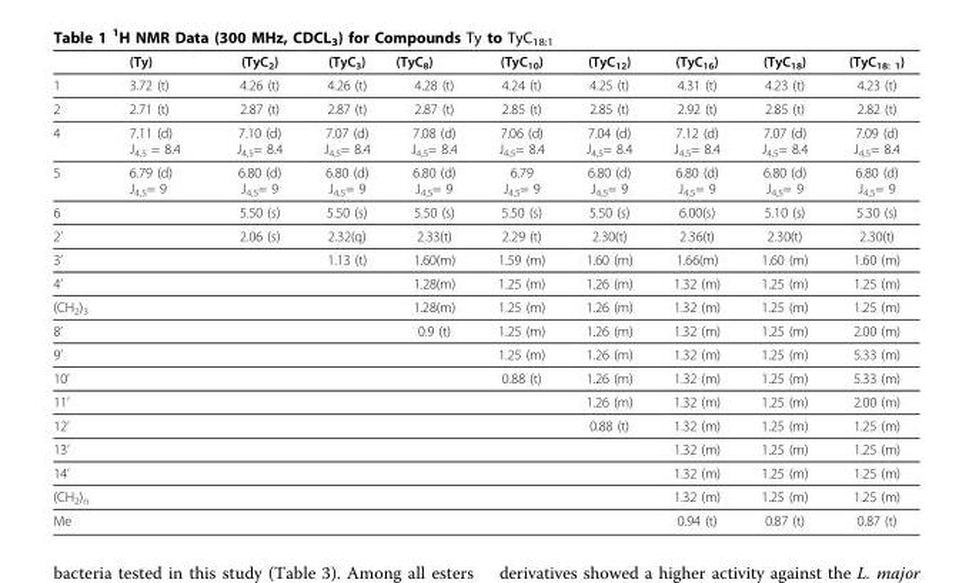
<table><thead><tr><td></td><td>(Ty)</td><td>(TyC<sub>2</sub>)</td><td>(TyC<sub>3</sub>)</td><td>(TyC<sub>8</sub>)</td><td>(TyC<sub>10</sub>)</td><td>(TyC<sub>12</sub>)</td><td>(TyC<sub>16</sub>)</td><td>(TyC<sub>18</sub>)</td><td>(TyC<sub>18: 1</sub>)</td></tr></thead><tbody><tr><td>1</td><td>3.72 (t)</td><td>4.26 (t)</td><td>4.26 (t)</td><td>4.28 (t)</td><td>4.24 (t)</td><td>4.25 (t)</td><td>4.31 (t)</td><td>4.23 (t)</td><td>4.23 (t)</td></tr><tr><td>2</td><td>2.71 (t)</td><td>2.87 (t)</td><td>2.87 (t)</td><td>2.87 (t)</td><td>2.85 (t)</td><td>2.85 (t)</td><td>2.92 (t)</td><td>2.85 (t)</td><td>2.82 (t)</td></tr><tr><td>4</td><td>7.11 (d) J<sub>4,5</sub> = 8.4</td><td>7.10 (d) J<sub>4,5</sub>= 8.4</td><td>7.07 (d) J<sub>4,5</sub>= 8.4</td><td>7.08 (d) J<sub>4,5</sub>= 8.4</td><td>7.06 (d) J<sub>4,5</sub>= 8.4</td><td>7.04 (d) J<sub>4,5</sub>= 8.4</td><td>7.12 (d) J<sub>4,5</sub>= 8.4</td><td>7.07 (d) J<sub>4,5</sub>= 8.4</td><td>7.09 (d) J<sub>4,5</sub>= 8.4</td></tr><tr><td>5</td><td>6.79 (d) J<sub>4,5</sub>= 9</td><td>6.80 (d) J<sub>4,5</sub>= 9</td><td>6.80 (d) J<sub>4,5</sub>= 9</td><td>6.80 (d) J<sub>4,5</sub>= 9</td><td>6.79 J<sub>4,5</sub>= 9</td><td>6.80 (d) J<sub>4,5</sub>= 9</td><td>6.80 (d) J<sub>4,5</sub>= 9</td><td>6.80 (d) J<sub>4,5</sub>= 9</td><td>6.80 (d) J<sub>4,5</sub>= 9</td></tr><tr><td>6</td><td></td><td>5.50 (s)</td><td>5.50 (s)</td><td>5.50 (s)</td><td>5.50 (s)</td><td>5.50 (s)</td><td>6.00(s)</td><td>5.10 (s)</td><td>5.30 (s)</td></tr><tr><td>2’</td><td></td><td>2.06 (s)</td><td>2.32(q)</td><td>2.33(t)</td><td>2.29 (t)</td><td>2.30(t)</td><td>2.36(t)</td><td>2.30(t)</td><td>2.30(t)</td></tr><tr><td>3’</td><td></td><td></td><td>1.13 (t)</td><td>1.60(m)</td><td>1.59 (m)</td><td>1.60 (m)</td><td>1.66(m)</td><td>1.60 (m)</td><td>1.60 (m)</td></tr><tr><td>4’</td><td></td><td></td><td></td><td>1.28(m)</td><td>1.25 (m)</td><td>1.26 (m)</td><td>1.32 (m)</td><td>1.25 (m)</td><td>1.25 (m)</td></tr><tr><td>(CH<sub>2</sub>)<sub>3</sub></td><td></td><td></td><td></td><td>1.28(m)</td><td>1.25 (m)</td><td>1.26 (m)</td><td>1.32 (m)</td><td>1.25 (m)</td><td>1.25 (m)</td></tr><tr><td>8’</td><td></td><td></td><td></td><td>0.9 (t)</td><td>1.25 (m)</td><td>1.26 (m)</td><td>1.32 (m)</td><td>1.25 (m)</td><td>2.00 (m)</td></tr><tr><td>9’</td><td></td><td></td><td></td><td></td><td>1.25 (m)</td><td>1.26 (m)</td><td>1.32 (m)</td><td>1.25 (m)</td><td>5.33 (m)</td></tr><tr><td>10’</td><td></td><td></td><td></td><td></td><td>0.88 (t)</td><td>1.26 (m)</td><td>1.32 (m)</td><td>1.25 (m)</td><td>5.33 (m)</td></tr><tr><td>11’</td><td></td><td></td><td></td><td></td><td></td><td>1.26 (m)</td><td>1.32 (m)</td><td>1.25 (m)</td><td>2.00 (m)</td></tr><tr><td>12’</td><td></td><td></td><td></td><td></td><td></td><td>0.88 (t)</td><td>1.32 (m)</td><td>1.25 (m)</td><td>1.25 (m)</td></tr><tr><td>13’</td><td></td><td></td><td></td><td></td><td></td><td></td><td>1.32 (m)</td><td>1.25 (m)</td><td>1.25 (m)</td></tr><tr><td>14’</td><td></td><td></td><td></td><td></td><td></td><td></td><td>1.32 (m)</td><td>1.25 (m)</td><td>1.25 (m)</td></tr><tr><td>(CH<sub>2</sub>)<sub>n</sub></td><td></td><td></td><td></td><td></td><td></td><td></td><td>1.32 (m)</td><td>1.25 (m)</td><td>1.25 (m)</td></tr><tr><td>Me</td><td></td><td></td><td></td><td></td><td></td><td></td><td>0.94 (t)</td><td>0.87 (t)</td><td>0.87 (t)</td></tr></tbody></table>